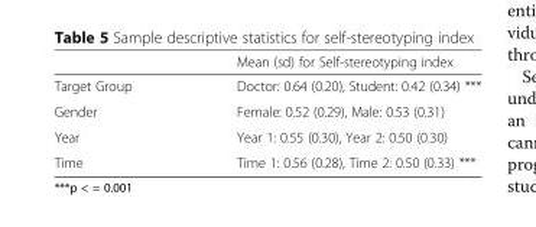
<table><thead><tr><td></td><td>Mean (sd) for Self-stereotyping index</td></tr></thead><tbody><tr><td>Target Group</td><td>Doctor: 0.64 (0.20), Student: 0.42 (0.34) ***</td></tr><tr><td>Gender</td><td>Female: 0.52 (0.29), Male: 0.53 (0.31)</td></tr><tr><td>Year</td><td>Year 1: 0.55 (0.30), Year 2: 0.50 (0.30)</td></tr><tr><td>Time</td><td>Time 1: 0.56 (0.28), Time 2: 0.50 (0.33) ***</td></tr></tbody></table>